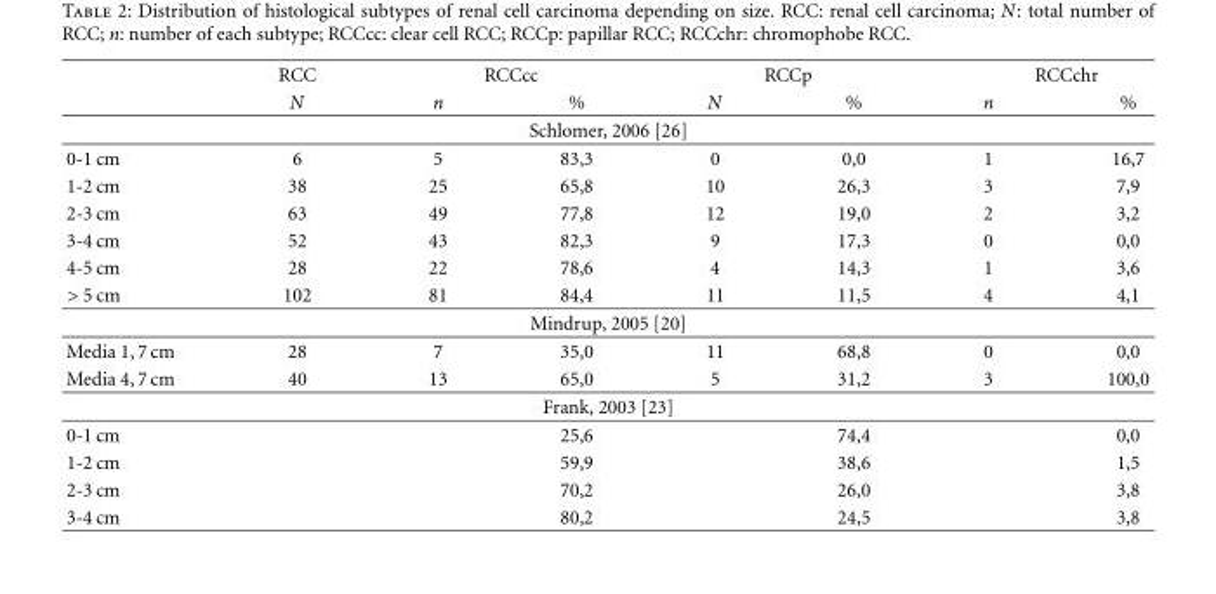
<table><thead><tr><td rowspan="2"></td><td rowspan="2">RCC N</td><td colspan="2">RCCcc</td><td colspan="2">RCCp</td><td colspan="2">RCCchr</td></tr><tr><td>n</td><td>%</td><td>N</td><td>%</td><td>n</td><td>%</td></tr></thead><tbody><tr><td colspan="8">Schlomer, 2006 [26]</td></tr><tr><td>0-1 cm</td><td>6</td><td>5</td><td>83,3</td><td>0</td><td>0,0</td><td>1</td><td>16,7</td></tr><tr><td>1-2 cm</td><td>38</td><td>25</td><td>65,8</td><td>10</td><td>26,3</td><td>3</td><td>7,9</td></tr><tr><td>2-3 cm</td><td>63</td><td>49</td><td>77,8</td><td>12</td><td>19,0</td><td>2</td><td>3,2</td></tr><tr><td>3-4 cm</td><td>52</td><td>43</td><td>82,3</td><td>9</td><td>17,3</td><td>0</td><td>0,0</td></tr><tr><td>4-5 cm</td><td>28</td><td>22</td><td>78,6</td><td>4</td><td>14,3</td><td>1</td><td>3,6</td></tr><tr><td>&gt; 5 cm</td><td>102</td><td>81</td><td>84,4</td><td>11</td><td>11,5</td><td>4</td><td>4,1</td></tr><tr><td colspan="8">Mindrup, 2005 [20]</td></tr><tr><td>Media 1,7 cm</td><td>28</td><td>7</td><td>35,0</td><td>11</td><td>68,8</td><td>0</td><td>0,0</td></tr><tr><td>Media 4,7 cm</td><td>40</td><td>13</td><td>65,0</td><td>5</td><td>31,2</td><td>3</td><td>100,0</td></tr><tr><td colspan="8">Frank, 2003 [23]</td></tr><tr><td>0-1 cm</td><td></td><td></td><td>25,6</td><td></td><td>74,4</td><td></td><td>0,0</td></tr><tr><td>1-2 cm</td><td></td><td></td><td>59,9</td><td></td><td>38,6</td><td></td><td>1,5</td></tr><tr><td>2-3 cm</td><td></td><td></td><td>70,2</td><td></td><td>26,0</td><td></td><td>3,8</td></tr><tr><td>3-4 cm</td><td></td><td></td><td>80,2</td><td></td><td>24,5</td><td></td><td>3,8</td></tr></tbody></table>